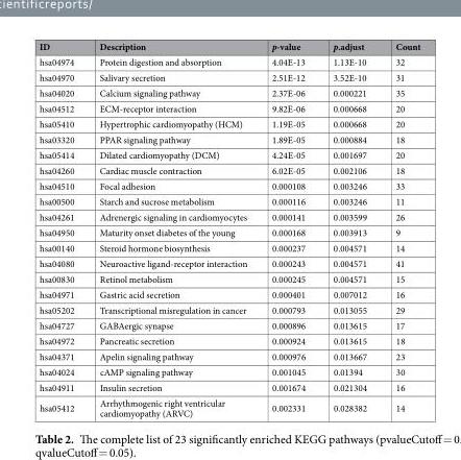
<table><thead><tr><td>ID</td><td>Description</td><td>p-value</td><td>p.adjust</td><td>Count</td></tr></thead><tbody><tr><td>hsa04974</td><td>Protein digestion and absorption</td><td>4.04E-13</td><td>1.13E-10</td><td>32</td></tr><tr><td>hsa04970</td><td>Salivary secretion</td><td>2.51E-12</td><td>3.52E-10</td><td>31</td></tr><tr><td>hsa04020</td><td>Calcium signaling pathway</td><td>2.37E-06</td><td>0.000221</td><td>35</td></tr><tr><td>hsa04512</td><td>ECM-receptor interaction</td><td>9.82E-06</td><td>0.000668</td><td>20</td></tr><tr><td>hsa05410</td><td>Hypertrophic cardiomyopathy (HCM)</td><td>1.19E-05</td><td>0.000668</td><td>20</td></tr><tr><td>hsa03320</td><td>PPAR signaling pathway</td><td>1.89E-05</td><td>0.000884</td><td>18</td></tr><tr><td>hsa05414</td><td>Dilated cardiomyopathy (DCM)</td><td>4.24E-05</td><td>0.001697</td><td>20</td></tr><tr><td>hsa04260</td><td>Cardiac muscle contraction</td><td>6.02E-05</td><td>0.002106</td><td>18</td></tr><tr><td>hsa04510</td><td>Focal adhesion</td><td>0.000108</td><td>0.003246</td><td>33</td></tr><tr><td>hsa00500</td><td>Starch and sucrose metabolism</td><td>0.000116</td><td>0.003246</td><td>11</td></tr><tr><td>hsa04261</td><td>Adrenergic signaling in cardiomyocytes</td><td>0.000141</td><td>0.003599</td><td>26</td></tr><tr><td>hsa04950</td><td>Maturity onset diabetes of the young</td><td>0.000168</td><td>0.003913</td><td>9</td></tr><tr><td>hsa00140</td><td>Steroid hormone biosynthesis</td><td>0.000237</td><td>0.004571</td><td>14</td></tr><tr><td>hsa04080</td><td>Neuroactive ligand-receptor interaction</td><td>0.000243</td><td>0.004571</td><td>41</td></tr><tr><td>hsa00830</td><td>Retinol metabolism</td><td>0.000245</td><td>0.004571</td><td>15</td></tr><tr><td>hsa04971</td><td>Gastric acid secretion</td><td>0.000401</td><td>0.007012</td><td>16</td></tr><tr><td>hsa05202</td><td>Transcriptional misregulation in cancer</td><td>0.000793</td><td>0.013055</td><td>29</td></tr><tr><td>hsa04727</td><td>GABAergic synapse</td><td>0.000896</td><td>0.013615</td><td>17</td></tr><tr><td>hsa04972</td><td>Pancreatic secretion</td><td>0.000924</td><td>0.013615</td><td>18</td></tr><tr><td>hsa04371</td><td>Apelin signaling pathway</td><td>0.000976</td><td>0.013667</td><td>23</td></tr><tr><td>hsa04024</td><td>cAMP signaling pathway</td><td>0.001045</td><td>0.01394</td><td>30</td></tr><tr><td>hsa04911</td><td>Insulin secretion</td><td>0.001674</td><td>0.021304</td><td>16</td></tr><tr><td>hsa05412</td><td>Arrhythmogenic right ventricular cardiomyopathy (ARVC)</td><td>0.002331</td><td>0.028382</td><td>14</td></tr></tbody></table>